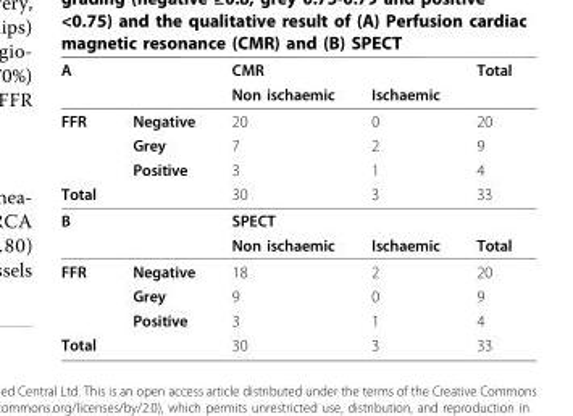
<table><thead><tr><td rowspan="2">A</td><td rowspan="2"></td><td rowspan="2">CMR Non ischaemic</td><td rowspan="2">Ischaemic</td><td rowspan="2">Total</td></tr><tr></tr></thead><tbody><tr><td rowspan="3">FFR</td><td>Negative</td><td>20</td><td>0</td><td>20</td></tr><tr><td>Grey</td><td>7</td><td>2</td><td>9</td></tr><tr><td>Positive</td><td>3</td><td>1</td><td>4</td></tr><tr><td>Total</td><td></td><td>30</td><td>3</td><td>33</td></tr><tr><td rowspan="2">B</td><td></td><td>SPECT</td><td></td><td></td></tr><tr><td></td><td>Non ischaemic</td><td>Ischaemic</td><td>Total</td></tr><tr><td rowspan="3">FFR</td><td>Negative</td><td>18</td><td>2</td><td>20</td></tr><tr><td>Grey</td><td>9</td><td>0</td><td>9</td></tr><tr><td>Positive</td><td>3</td><td>1</td><td>4</td></tr><tr><td>Total</td><td></td><td>30</td><td>3</td><td>33</td></tr></tbody></table>